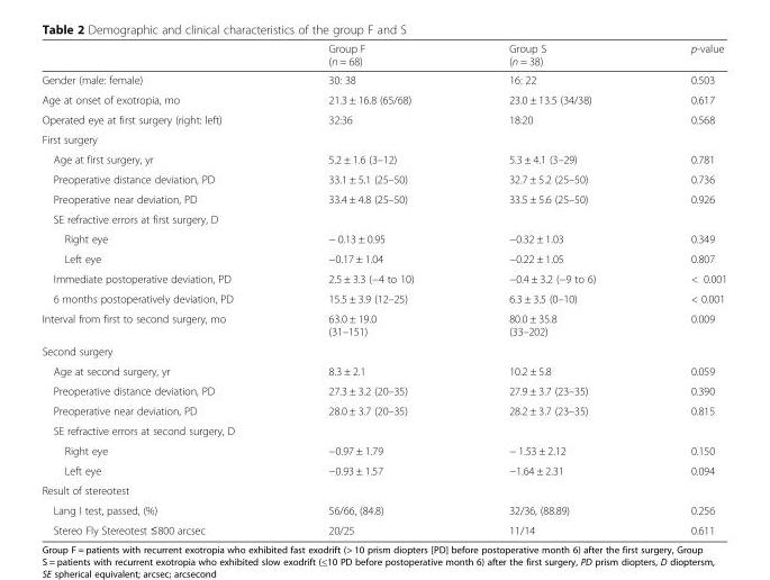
<table><thead><tr><td></td><td>Group F (n = 68)</td><td>Group S (n = 38)</td><td>p-value</td></tr></thead><tbody><tr><td>Gender (male: female)</td><td>30: 38</td><td>16: 22</td><td>0.503</td></tr><tr><td>Age at onset of exotropia, mo</td><td>21.3 ± 16.8 (65/68)</td><td>23.0 ± 13.5 (34/38)</td><td>0.617</td></tr><tr><td>Operated eye at first surgery (right: left)</td><td>32:36</td><td>18:20</td><td>0.568</td></tr><tr><td colspan="4">First surgery</td></tr><tr><td>Age at first surgery, yr</td><td>5.2 ± 1.6 (3–12)</td><td>5.3 ± 4.1 (3–29)</td><td>0.781</td></tr><tr><td>Preoperative distance deviation, PD</td><td>33.1 ± 5.1 (25–50)</td><td>32.7 ± 5.2 (25–50)</td><td>0.736</td></tr><tr><td>Preoperative near deviation, PD</td><td>33.4 ± 4.8 (25–50)</td><td>33.5 ± 5.6 (25–50)</td><td>0.926</td></tr><tr><td colspan="4">SE refractive errors at first surgery, D</td></tr><tr><td>Right eye</td><td>− 0.13 ± 0.95</td><td>−0.32 ± 1.03</td><td>0.349</td></tr><tr><td>Left eye</td><td>−0.17 ± 1.04</td><td>−0.22 ± 1.05</td><td>0.807</td></tr><tr><td>Immediate postoperative deviation, PD</td><td>2.5 ± 3.3 (−4 to 10)</td><td>−0.4 ± 3.2 (−9 to 6)</td><td>&lt; 0.001</td></tr><tr><td>6 months postoperatively deviation, PD</td><td>15.5 ± 3.9 (12–25)</td><td>6.3 ± 3.5 (0–10)</td><td>&lt; 0.001</td></tr><tr><td>Interval from first to second surgery, mo</td><td>63.0 ± 19.0 (31–151)</td><td>80.0 ± 35.8 (33–202)</td><td>0.009</td></tr><tr><td colspan="4">Second surgery</td></tr><tr><td>Age at second surgery, yr</td><td>8.3 ± 2.1</td><td>10.2 ± 5.8</td><td>0.059</td></tr><tr><td>Preoperative distance deviation, PD</td><td>27.3 ± 3.2 (20–35)</td><td>27.9 ± 3.7 (23–35)</td><td>0.390</td></tr><tr><td>Preoperative near deviation, PD</td><td>28.0 ± 3.7 (20–35)</td><td>28.2 ± 3.7 (23–35)</td><td>0.815</td></tr><tr><td colspan="4">SE refractive errors at second surgery, D</td></tr><tr><td>Right eye</td><td>−0.97 ± 1.79</td><td>− 1.53 ± 2.12</td><td>0.150</td></tr><tr><td>Left eye</td><td>−0.93 ± 1.57</td><td>−1.64 ± 2.31</td><td>0.094</td></tr><tr><td colspan="4">Result of stereotest</td></tr><tr><td>Lang I test, passed, (%)</td><td>56/66, (84.8)</td><td>32/36, (88.89)</td><td>0.256</td></tr><tr><td>Stereo Fly Stereotest ≤800 arcsec</td><td>20/25</td><td>11/14</td><td>0.611</td></tr></tbody></table>